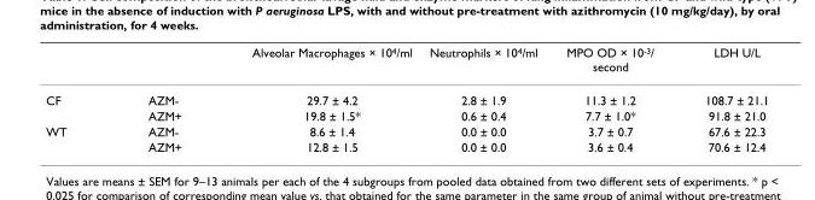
<table><thead><tr><td></td><td></td><td>Alveolar Macrophages × 10<sup>4</sup>/ml</td><td>Neutrophils × 10<sup>4</sup>/ml</td><td>MPO OD × 10<sup>-3</sup>/ second</td><td>LDH U/L</td></tr></thead><tbody><tr><td rowspan="2">CF</td><td>AZM-</td><td>29.7 ± 4.2</td><td>2.8 ± 1.9</td><td>11.3 ± 1.2</td><td>108.7 ± 21.1</td></tr><tr><td>AZM+</td><td>19.8 ± 1.5*</td><td>0.6 ± 0.4</td><td>7.7 ± 1.0*</td><td>91.8 ± 21.0</td></tr><tr><td rowspan="2">WT</td><td>AZM-</td><td>8.6 ± 1.4</td><td>0.0 ± 0.0</td><td>3.7 ± 0.7</td><td>67.6 ± 22.3</td></tr><tr><td>AZM+</td><td>12.8 ± 1.5</td><td>0.0 ± 0.0</td><td>3.6 ± 0.4</td><td>70.6 ± 12.4</td></tr></tbody></table>